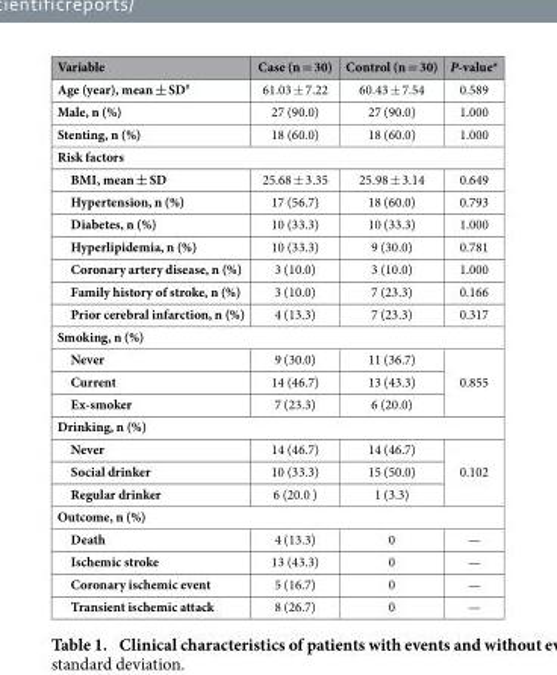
<table><thead><tr><td>Variable</td><td>Case (n = 30)</td><td>Control (n = 30)</td><td>P-value*</td></tr></thead><tbody><tr><td>Age (year), mean ± SD<sup>#</sup></td><td>61.03 ± 7.22</td><td>60.43 ± 7.54</td><td>0.589</td></tr><tr><td>Male, n (%)</td><td>27 (90.0)</td><td>27 (90.0)</td><td>1.000</td></tr><tr><td>Stenting, n (%)</td><td>18 (60.0)</td><td>18 (60.0)</td><td>1.000</td></tr><tr><td colspan="4">Risk factors</td></tr><tr><td>BMI, mean ± SD</td><td>25.68 ± 3.35</td><td>25.98 ± 3.14</td><td>0.649</td></tr><tr><td>Hypertension, n (%)</td><td>17 (56.7)</td><td>18 (60.0)</td><td>0.793</td></tr><tr><td>Diabetes, n (%)</td><td>10 (33.3)</td><td>10 (33.3)</td><td>1.000</td></tr><tr><td>Hyperlipidemia, n (%)</td><td>10 (33.3)</td><td>9 (30.0)</td><td>0.781</td></tr><tr><td>Coronary artery disease, n (%)</td><td>3 (10.0)</td><td>3 (10.0)</td><td>1.000</td></tr><tr><td>Family history of stroke, n (%)</td><td>3 (10.0)</td><td>7 (23.3)</td><td>0.166</td></tr><tr><td>Prior cerebral infarction, n (%)</td><td>4 (13.3)</td><td>7 (23.3)</td><td>0.317</td></tr><tr><td colspan="4">Smoking, n (%)</td></tr><tr><td>Never</td><td>9 (30.0)</td><td>11 (36.7)</td><td rowspan="3">0.855</td></tr><tr><td>Current</td><td>14 (46.7)</td><td>13 (43.3)</td></tr><tr><td>Ex-smoker</td><td>7 (23.3)</td><td>6 (20.0)</td></tr><tr><td colspan="4">Drinking, n (%)</td></tr><tr><td>Never</td><td>14 (46.7)</td><td>14 (46.7)</td><td rowspan="3">0.102</td></tr><tr><td>Social drinker</td><td>10 (33.3)</td><td>15 (50.0)</td></tr><tr><td>Regular drinker</td><td>6 (20.0 )</td><td>1 (3.3)</td></tr><tr><td colspan="4">Outcome, n (%)</td></tr><tr><td>Death</td><td>4 (13.3)</td><td>0</td><td>—</td></tr><tr><td>Ischemic stroke</td><td>13 (43.3)</td><td>0</td><td>—</td></tr><tr><td>Coronary ischemic event</td><td>5 (16.7)</td><td>0</td><td>—</td></tr><tr><td>Transient ischemic attack</td><td>8 (26.7)</td><td>0</td><td>—</td></tr></tbody></table>